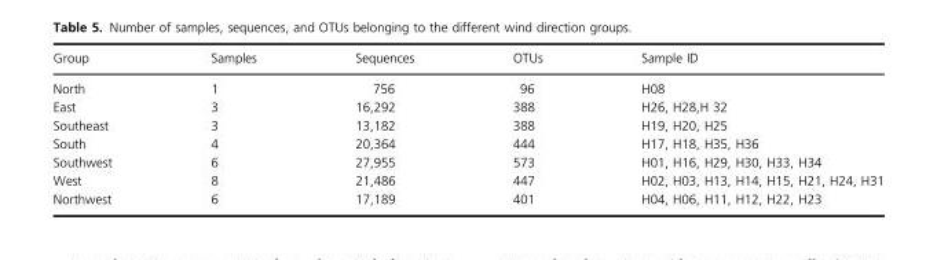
<table><thead><tr><td>Group</td><td>Samples</td><td>Sequences</td><td>OTUs</td><td>Sample ID</td></tr></thead><tbody><tr><td>North</td><td>1</td><td>756</td><td>96</td><td>H08</td></tr><tr><td>East</td><td>3</td><td>16,292</td><td>388</td><td>H26, H28,H 32</td></tr><tr><td>Southeast</td><td>3</td><td>13,182</td><td>388</td><td>H19, H20, H25</td></tr><tr><td>South</td><td>4</td><td>20,364</td><td>444</td><td>H17, H18, H35, H36</td></tr><tr><td>Southwest</td><td>6</td><td>27,955</td><td>573</td><td>H01, H16, H29, H30, H33, H34</td></tr><tr><td>West</td><td>8</td><td>21,486</td><td>447</td><td>H02, H03, H13, H14, H15, H21, H24, H31</td></tr><tr><td>Northwest</td><td>6</td><td>17,189</td><td>401</td><td>H04, H06, H11, H12, H22, H23</td></tr></tbody></table>